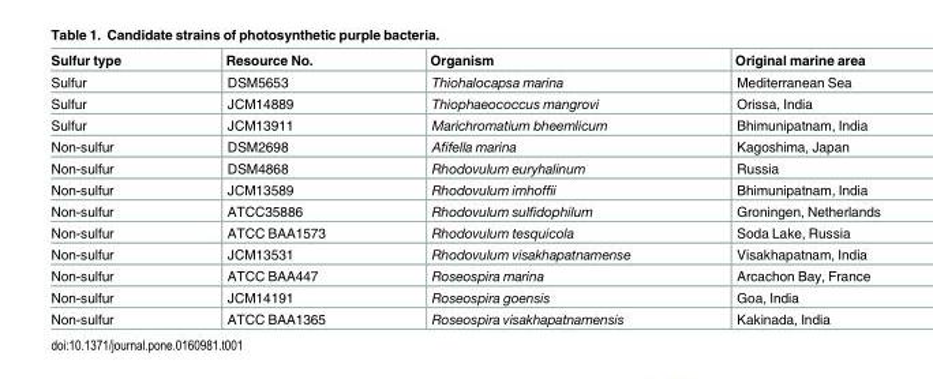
<table><thead><tr><td>Sulfur type</td><td>Resource No.</td><td>Organism</td><td>Original marine area</td></tr></thead><tbody><tr><td>Sulfur</td><td>DSM5653</td><td>Thiohalocapsa marina</td><td>Mediterranean Sea</td></tr><tr><td>Sulfur</td><td>JCM14889</td><td>Thiophaeococcus mangrovi</td><td>Orissa, India</td></tr><tr><td>Sulfur</td><td>JCM13911</td><td>Marichromatium bheemlicum</td><td>Bhimunipatnam, India</td></tr><tr><td>Non-sulfur</td><td>DSM2698</td><td>Afifella marina</td><td>Kagoshima, Japan</td></tr><tr><td>Non-sulfur</td><td>DSM4868</td><td>Rhodovulum euryhalinum</td><td>Russia</td></tr><tr><td>Non-sulfur</td><td>JCM13589</td><td>Rhodovulum imhoffii</td><td>Bhimunipatnam, India</td></tr><tr><td>Non-sulfur</td><td>ATCC35886</td><td>Rhodovulum sulfidophilum</td><td>Groningen, Netherlands</td></tr><tr><td>Non-sulfur</td><td>ATCC BAA1573</td><td>Rhodovulum tesquicola</td><td>Soda Lake, Russia</td></tr><tr><td>Non-sulfur</td><td>JCM13531</td><td>Rhodovulum visakhapatnamense</td><td>Visakhapatnam, India</td></tr><tr><td>Non-sulfur</td><td>ATCC BAA447</td><td>Roseospira marina</td><td>Arcachon Bay, France</td></tr><tr><td>Non-sulfur</td><td>JCM14191</td><td>Roseospira goensis</td><td>Goa, India</td></tr><tr><td>Non-sulfur</td><td>ATCC BAA1365</td><td>Roseospira visakhapatnamensis</td><td>Kakinada, India</td></tr></tbody></table>